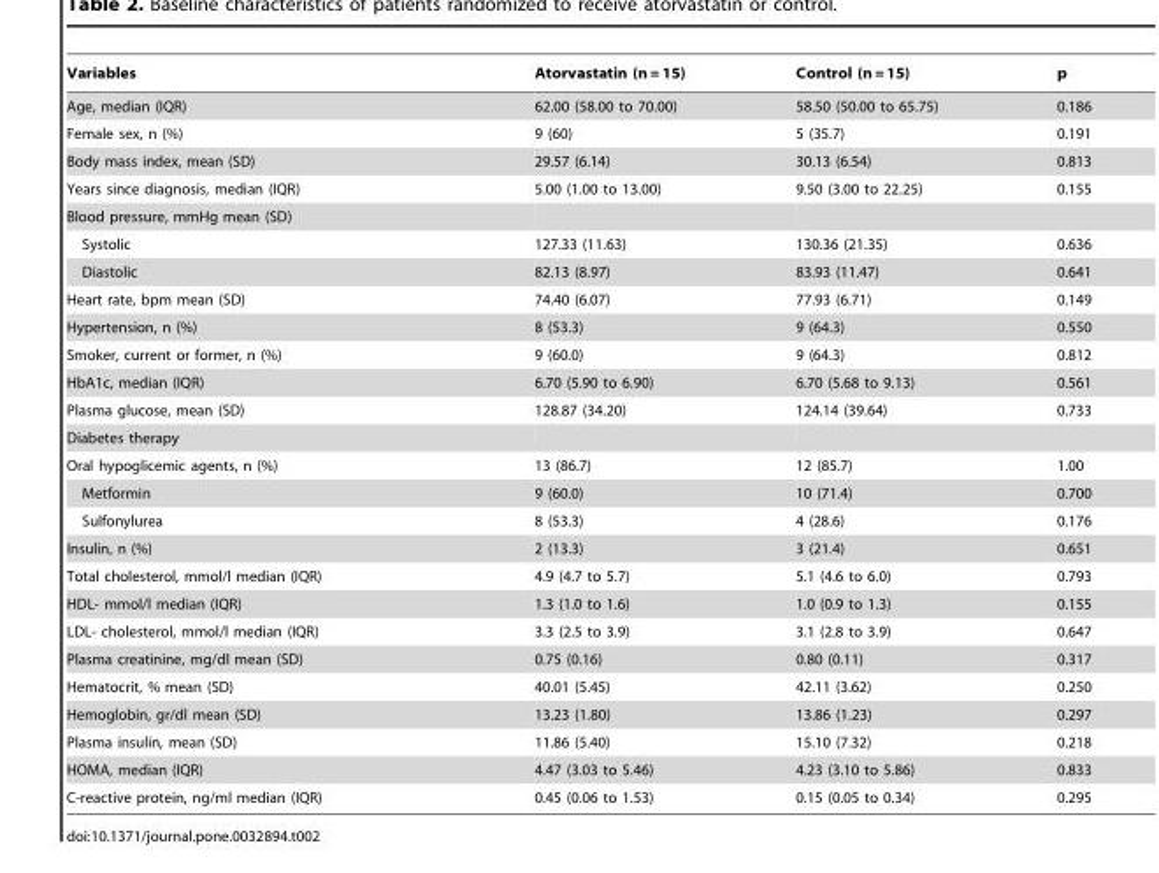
<table><thead><tr><td>Variables</td><td>Atorvastatin (n = 15)</td><td>Control (n = 15)</td><td>p</td></tr></thead><tbody><tr><td>Age, median (IQR)</td><td>62.00 (58.00 to 70.00)</td><td>58.50 (50.00 to 65.75)</td><td>0.186</td></tr><tr><td>Female sex, n (%)</td><td>9 (60)</td><td>5 (35.7)</td><td>0.191</td></tr><tr><td>Body mass index, mean (SD)</td><td>29.57 (6.14)</td><td>30.13 (6.54)</td><td>0.813</td></tr><tr><td>Years since diagnosis, median (IQR)</td><td>5.00 (1.00 to 13.00)</td><td>9.50 (3.00 to 22.25)</td><td>0.155</td></tr><tr><td colspan="4">Blood pressure, mmHg mean (SD)</td></tr><tr><td>Systolic</td><td>127.33 (11.63)</td><td>130.36 (21.35)</td><td>0.636</td></tr><tr><td>Diastolic</td><td>82.13 (8.97)</td><td>83.93 (11.47)</td><td>0.641</td></tr><tr><td>Heart rate, bpm mean (SD)</td><td>74.40 (6.07)</td><td>77.93 (6.71)</td><td>0.149</td></tr><tr><td>Hypertension, n (%)</td><td>8 (53.3)</td><td>9 (64.3)</td><td>0.550</td></tr><tr><td>Smoker, current or former, n (%)</td><td>9 (60.0)</td><td>9 (64.3)</td><td>0.812</td></tr><tr><td>HbA1c, median (IQR)</td><td>6.70 (5.90 to 6.90)</td><td>6.70 (5.68 to 9.13)</td><td>0.561</td></tr><tr><td>Plasma glucose, mean (SD)</td><td>128.87 (34.20)</td><td>124.14 (39.64)</td><td>0.733</td></tr><tr><td colspan="4">Diabetes therapy</td></tr><tr><td>Oral hypoglicemic agents, n (%)</td><td>13 (86.7)</td><td>12 (85.7)</td><td>1.00</td></tr><tr><td>Metformin</td><td>9 (60.0)</td><td>10 (71.4)</td><td>0.700</td></tr><tr><td>Sulfonylurea</td><td>8 (53.3)</td><td>4 (28.6)</td><td>0.176</td></tr><tr><td>Insulin, n (%)</td><td>2 (13.3)</td><td>3 (21.4)</td><td>0.651</td></tr><tr><td>Total cholesterol, mmol/l median (IQR)</td><td>4.9 (4.7 to 5.7)</td><td>5.1 (4.6 to 6.0)</td><td>0.793</td></tr><tr><td>HDL- mmol/l median (IQR)</td><td>1.3 (1.0 to 1.6)</td><td>1.0 (0.9 to 1.3)</td><td>0.155</td></tr><tr><td>LDL- cholesterol, mmol/l median (IQR)</td><td>3.3 (2.5 to 3.9)</td><td>3.1 (2.8 to 3.9)</td><td>0.647</td></tr><tr><td>Plasma creatinine, mg/dl mean (SD)</td><td>0.75 (0.16)</td><td>0.80 (0.11)</td><td>0.317</td></tr><tr><td>Hematocrit, % mean (SD)</td><td>40.01 (5.45)</td><td>42.11 (3.62)</td><td>0.250</td></tr><tr><td>Hemoglobin, gr/dl mean (SD)</td><td>13.23 (1.80)</td><td>13.86 (1.23)</td><td>0.297</td></tr><tr><td>Plasma insulin, mean (SD)</td><td>11.86 (5.40)</td><td>15.10 (7.32)</td><td>0.218</td></tr><tr><td>HOMA, median (IQR)</td><td>4.47 (3.03 to 5.46)</td><td>4.23 (3.10 to 5.86)</td><td>0.833</td></tr><tr><td>C-reactive protein, ng/ml median (IQR)</td><td>0.45 (0.06 to 1.53)</td><td>0.15 (0.05 to 0.34)</td><td>0.295</td></tr></tbody></table>